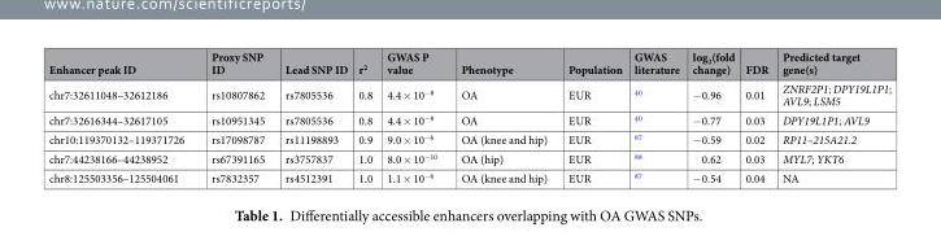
<table><thead><tr><td>Enhancer peak ID</td><td>Proxy SNP ID</td><td>Lead SNP ID</td><td>r<sup>2</sup></td><td>GWAS P value</td><td>Phenotype</td><td>Population</td><td>GWAS literature</td><td>log<sub>2</sub>(fold change)</td><td>FDR</td><td>Predicted target gene(s)</td></tr></thead><tbody><tr><td>chr7:32611048–32612186</td><td>rs10807862</td><td>rs7805536</td><td>0.8</td><td>4.4 × 10<sup>−8</sup></td><td>OA</td><td>EUR</td><td><sup>40</sup></td><td>−0.96</td><td>0.01</td><td>ZNRF2P1; DPY19L1P1; AVL9; LSM5</td></tr><tr><td>chr7:32616344–32617105</td><td>rs10951345</td><td>rs7805536</td><td>0.8</td><td>4.4 × 10<sup>−8</sup></td><td>OA</td><td>EUR</td><td><sup>40</sup></td><td>−0.77</td><td>0.03</td><td>DPY19L1P1; AVL9</td></tr><tr><td>chr10:119370132–119371726</td><td>rs17098787</td><td>rs11198893</td><td>0.9</td><td>9.0 × 10<sup>−6</sup></td><td>OA (knee and hip)</td><td>EUR</td><td><sup>87</sup></td><td>−0.59</td><td>0.02</td><td>RP11–215A21.2</td></tr><tr><td>chr7:44238166–44238952</td><td>rs67391165</td><td>rs3757837</td><td>1.0</td><td>8.0 × 10<sup>−10</sup></td><td>OA (hip)</td><td>EUR</td><td><sup>88</sup></td><td>0.62</td><td>0.03</td><td>MYL7; YKT6</td></tr><tr><td>chr8:125503356–125504061</td><td>rs7832357</td><td>rs4512391</td><td>1.0</td><td>1.1 × 10<sup>−6</sup></td><td>OA (knee and hip)</td><td>EUR</td><td><sup>87</sup></td><td>−0.54</td><td>0.04</td><td>NA</td></tr></tbody></table>